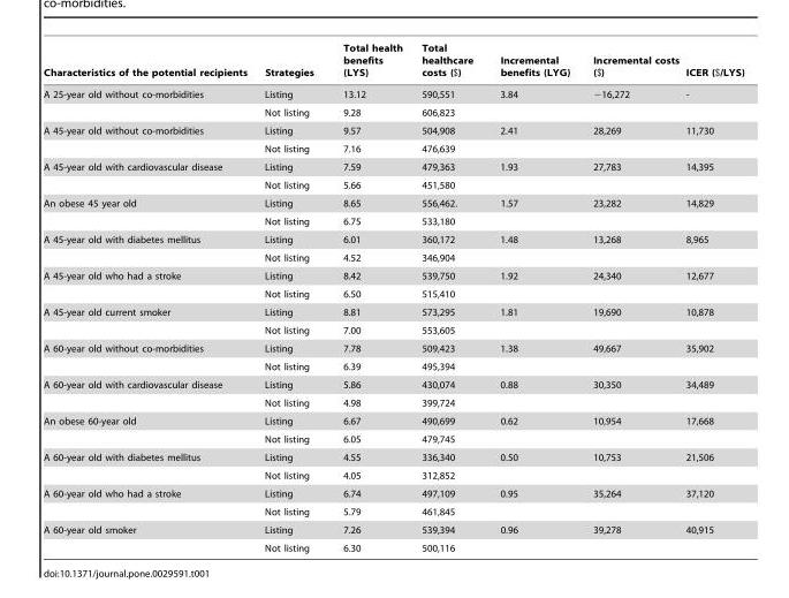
<table><thead><tr><td>Characteristics of the potential recipients</td><td>Strategies</td><td>Total health benefits (LYS)</td><td>Total healthcare costs ($)</td><td>Incremental benefits (LYG)</td><td>Incremental costs ($)</td><td>ICER ($/LYS)</td></tr></thead><tbody><tr><td rowspan="2">A 25-year old without co-morbidities</td><td>Listing</td><td>13.12</td><td>590,551</td><td>3.84</td><td>−16,272</td><td>-</td></tr><tr><td>Not listing</td><td>9.28</td><td>606,823</td><td></td><td></td><td></td></tr><tr><td rowspan="2">A 45-year old without co-morbidities</td><td>Listing</td><td>9.57</td><td>504,908</td><td>2.41</td><td>28,269</td><td>11,730</td></tr><tr><td>Not listing</td><td>7.16</td><td>476,639</td><td></td><td></td><td></td></tr><tr><td rowspan="2">A 45-year old with cardiovascular disease</td><td>Listing</td><td>7.59</td><td>479,363</td><td>1.93</td><td>27,783</td><td>14,395</td></tr><tr><td>Not listing</td><td>5.66</td><td>451,580</td><td></td><td></td><td></td></tr><tr><td rowspan="2">An obese 45 year old</td><td>Listing</td><td>8.65</td><td>556,462.</td><td>1.57</td><td>23,282</td><td>14,829</td></tr><tr><td>Not listing</td><td>6.75</td><td>533,180</td><td></td><td></td><td></td></tr><tr><td rowspan="2">A 45-year old with diabetes mellitus</td><td>Listing</td><td>6.01</td><td>360,172</td><td>1.48</td><td>13,268</td><td>8,965</td></tr><tr><td>Not listing</td><td>4.52</td><td>346,904</td><td></td><td></td><td></td></tr><tr><td rowspan="2">A 45-year old who had a stroke</td><td>Listing</td><td>8.42</td><td>539,750</td><td>1.92</td><td>24,340</td><td>12,677</td></tr><tr><td>Not listing</td><td>6.50</td><td>515,410</td><td></td><td></td><td></td></tr><tr><td rowspan="2">A 45-year old current smoker</td><td>Listing</td><td>8.81</td><td>573,295</td><td>1.81</td><td>19,690</td><td>10,878</td></tr><tr><td>Not listing</td><td>7.00</td><td>553,605</td><td></td><td></td><td></td></tr><tr><td rowspan="2">A 60-year old without co-morbidities</td><td>Listing</td><td>7.78</td><td>509,423</td><td>1.38</td><td>49,667</td><td>35,902</td></tr><tr><td>Not listing</td><td>6.39</td><td>495,394</td><td></td><td></td><td></td></tr><tr><td rowspan="2">A 60-year old with cardiovascular disease</td><td>Listing</td><td>5.86</td><td>430,074</td><td>0.88</td><td>30,350</td><td>34,489</td></tr><tr><td>Not listing</td><td>4.98</td><td>399,724</td><td></td><td></td><td></td></tr><tr><td rowspan="2">An obese 60-year old</td><td>Listing</td><td>6.67</td><td>490,699</td><td>0.62</td><td>10,954</td><td>17,668</td></tr><tr><td>Not listing</td><td>6.05</td><td>479,745</td><td></td><td></td><td></td></tr><tr><td rowspan="2">A 60-year old with diabetes mellitus</td><td>Listing</td><td>4.55</td><td>336,340</td><td>0.50</td><td>10,753</td><td>21,506</td></tr><tr><td>Not listing</td><td>4.05</td><td>312,852</td><td></td><td></td><td></td></tr><tr><td rowspan="2">A 60-year old who had a stroke</td><td>Listing</td><td>6.74</td><td>497,109</td><td>0.95</td><td>35,264</td><td>37,120</td></tr><tr><td>Not listing</td><td>5.79</td><td>461,845</td><td></td><td></td><td></td></tr><tr><td rowspan="2">A 60-year old smoker</td><td>Listing</td><td>7.26</td><td>539,394</td><td>0.96</td><td>39,278</td><td>40,915</td></tr><tr><td>Not listing</td><td>6.30</td><td>500,116</td><td></td><td></td><td></td></tr></tbody></table>